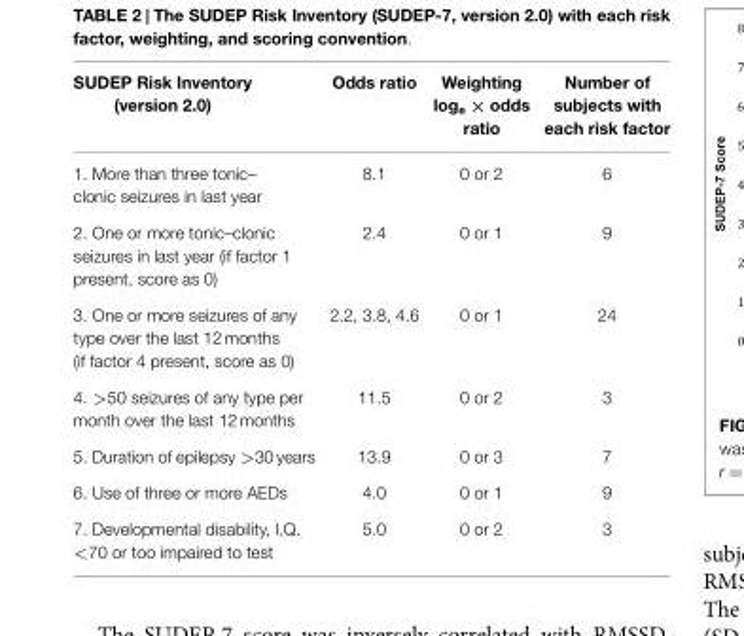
<table><thead><tr><td>SUDEP Risk Inventory (version 2.0)</td><td>Odds ratio</td><td>Weighting log<sub>e</sub> × odds ratio</td><td>Number of subjects with each risk factor</td></tr></thead><tbody><tr><td>1. More than three tonic– clonic seizures in last year</td><td>8.1</td><td>0 or 2</td><td>6</td></tr><tr><td>2. One or more tonic–clonic seizures in last year (if factor 1 present, score as 0)</td><td>2.4</td><td>0 or 1</td><td>9</td></tr><tr><td>3. One or more seizures of any type over the last 12 months (if factor 4 present, score as 0)</td><td>2.2, 3.8, 4.6</td><td>0 or 1</td><td>24</td></tr><tr><td>4. &gt;50 seizures of any type per month over the last 12 months</td><td>11.5</td><td>0 or 2</td><td>3</td></tr><tr><td>5. Duration of epilepsy &gt;30 years</td><td>13.9</td><td>0 or 3</td><td>7</td></tr><tr><td>6. Use of three or more AEDs</td><td>4.0</td><td>0 or 1</td><td>9</td></tr><tr><td>7. Developmental disability, I.Q. &lt;70 or too impaired to test</td><td>5.0</td><td>0 or 2</td><td>3</td></tr></tbody></table>